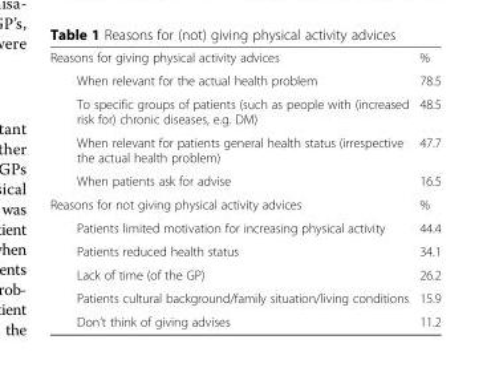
<table><tbody><tr><td>Reasons for giving physical activity advices</td><td>%</td></tr><tr><td>When relevant for the actual health problem</td><td>78.5</td></tr><tr><td>To specific groups of patients (such as people with (increased risk for) chronic diseases, e.g. DM)</td><td>48.5</td></tr><tr><td>When relevant for patients general health status (irrespective the actual health problem)</td><td>47.7</td></tr><tr><td>When patients ask for advise</td><td>16.5</td></tr><tr><td>Reasons for not giving physical activity advices</td><td>%</td></tr><tr><td>Patients limited motivation for increasing physical activity</td><td>44.4</td></tr><tr><td>Patients reduced health status</td><td>34.1</td></tr><tr><td>Lack of time (of the GP)</td><td>26.2</td></tr><tr><td>Patients cultural background/family situation/living conditions</td><td>15.9</td></tr><tr><td>Don’t think of giving advises</td><td>11.2</td></tr></tbody></table>